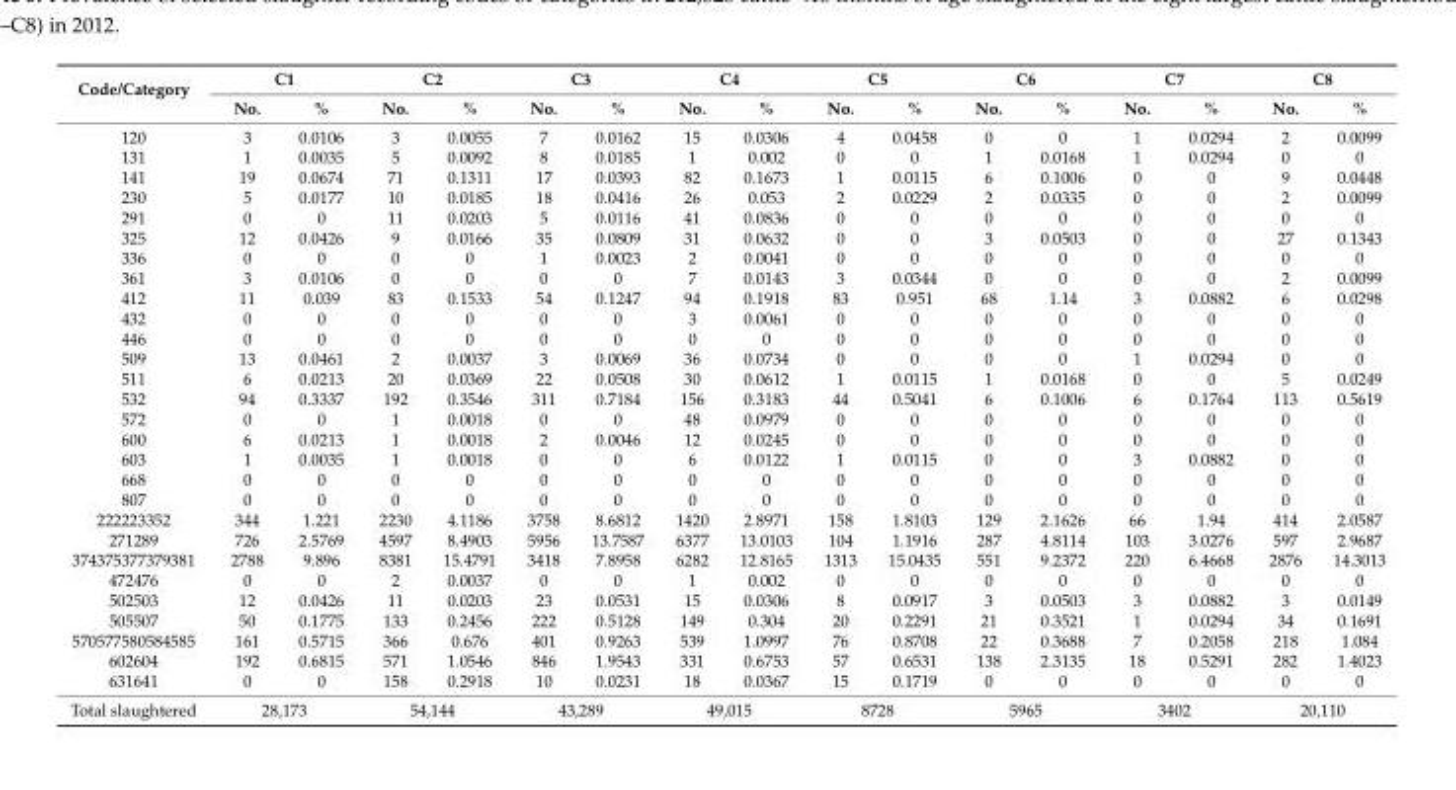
<table><thead><tr><td rowspan="2">Code/Category</td><td colspan="2">C1</td><td colspan="2">C2</td><td colspan="2">C3</td><td colspan="2">C4</td><td colspan="2">C5</td><td colspan="2">C6</td><td colspan="2">C7</td><td colspan="2">C8</td></tr><tr><td>No.</td><td>%</td><td>No.</td><td>%</td><td>No.</td><td>%</td><td>No.</td><td>%</td><td>No.</td><td>%</td><td>No.</td><td>%</td><td>No.</td><td>%</td><td>No.</td><td>%</td></tr></thead><tbody><tr><td>120</td><td>3</td><td>0.0106</td><td>3</td><td>0.0055</td><td>7</td><td>0.0162</td><td>15</td><td>0.0306</td><td>4</td><td>0.0458</td><td>0</td><td>0</td><td>1</td><td>0.0294</td><td>2</td><td>0.0099</td></tr><tr><td>131</td><td>1</td><td>0.0035</td><td>5</td><td>0.0092</td><td>8</td><td>0.0185</td><td>1</td><td>0.002</td><td>0</td><td>0</td><td>1</td><td>0.0168</td><td>1</td><td>0.0294</td><td>0</td><td>0</td></tr><tr><td>141</td><td>19</td><td>0.0674</td><td>71</td><td>0.1311</td><td>17</td><td>0.0393</td><td>82</td><td>0.1673</td><td>1</td><td>0.0115</td><td>6</td><td>0.1006</td><td>0</td><td>0</td><td>9</td><td>0.0448</td></tr><tr><td>230</td><td>5</td><td>0.0177</td><td>10</td><td>0.0185</td><td>18</td><td>0.0416</td><td>26</td><td>0.053</td><td>2</td><td>0.0229</td><td>2</td><td>0.0335</td><td>0</td><td>0</td><td>2</td><td>0.0099</td></tr><tr><td>291</td><td>0</td><td>0</td><td>11</td><td>0.0203</td><td>5</td><td>0.0116</td><td>41</td><td>0.0836</td><td>0</td><td>0</td><td>0</td><td>0</td><td>0</td><td>0</td><td>0</td><td>0</td></tr><tr><td>325</td><td>12</td><td>0.0426</td><td>9</td><td>0.0166</td><td>35</td><td>0.0809</td><td>31</td><td>0.0632</td><td>0</td><td>0</td><td>3</td><td>0.0503</td><td>0</td><td>0</td><td>27</td><td>0.1343</td></tr><tr><td>336</td><td>0</td><td>0</td><td>0</td><td>0</td><td>1</td><td>0.0023</td><td>2</td><td>0.0041</td><td>0</td><td>0</td><td>0</td><td>0</td><td>0</td><td>0</td><td>0</td><td>0</td></tr><tr><td>361</td><td>3</td><td>0.0106</td><td>0</td><td>0</td><td>0</td><td>0</td><td>7</td><td>0.0143</td><td>3</td><td>0.0344</td><td>0</td><td>0</td><td>0</td><td>0</td><td>2</td><td>0.0099</td></tr><tr><td>412</td><td>11</td><td>0.039</td><td>83</td><td>0.1533</td><td>54</td><td>0.1247</td><td>94</td><td>0.1918</td><td>83</td><td>0.951</td><td>68</td><td>1.14</td><td>3</td><td>0.0882</td><td>6</td><td>0.0298</td></tr><tr><td>432</td><td>0</td><td>0</td><td>0</td><td>0</td><td>0</td><td>0</td><td>3</td><td>0.0061</td><td>0</td><td>0</td><td>0</td><td>0</td><td>0</td><td>0</td><td>0</td><td>0</td></tr><tr><td>446</td><td>0</td><td>0</td><td>0</td><td>0</td><td>0</td><td>0</td><td>0</td><td>0</td><td>0</td><td>0</td><td>0</td><td>0</td><td>0</td><td>0</td><td>0</td><td>0</td></tr><tr><td>509</td><td>13</td><td>0.0461</td><td>2</td><td>0.0037</td><td>3</td><td>0.0069</td><td>36</td><td>0.0734</td><td>0</td><td>0</td><td>0</td><td>0</td><td>1</td><td>0.0294</td><td>0</td><td>0</td></tr><tr><td>511</td><td>6</td><td>0.0213</td><td>20</td><td>0.0369</td><td>22</td><td>0.0508</td><td>30</td><td>0.0612</td><td>1</td><td>0.0115</td><td>1</td><td>0.0168</td><td>0</td><td>0</td><td>5</td><td>0.0249</td></tr><tr><td>532</td><td>94</td><td>0.3337</td><td>192</td><td>0.3546</td><td>311</td><td>0.7184</td><td>156</td><td>0.3183</td><td>44</td><td>0.5041</td><td>6</td><td>0.1006</td><td>6</td><td>0.1764</td><td>113</td><td>0.5619</td></tr><tr><td>572</td><td>0</td><td>0</td><td>1</td><td>0.0018</td><td>0</td><td>0</td><td>48</td><td>0.0979</td><td>0</td><td>0</td><td>0</td><td>0</td><td>0</td><td>0</td><td>0</td><td>0</td></tr><tr><td>600</td><td>6</td><td>0.0213</td><td>1</td><td>0.0018</td><td>2</td><td>0.0046</td><td>12</td><td>0.0245</td><td>0</td><td>0</td><td>0</td><td>0</td><td>0</td><td>0</td><td>0</td><td>0</td></tr><tr><td>603</td><td>1</td><td>0.0035</td><td>1</td><td>0.0018</td><td>0</td><td>0</td><td>6</td><td>0.0122</td><td>1</td><td>0.0115</td><td>0</td><td>0</td><td>3</td><td>0.0882</td><td>0</td><td>0</td></tr><tr><td>668</td><td>0</td><td>0</td><td>0</td><td>0</td><td>0</td><td>0</td><td>0</td><td>0</td><td>0</td><td>0</td><td>0</td><td>0</td><td>0</td><td>0</td><td>0</td><td>0</td></tr><tr><td>807</td><td>0</td><td>0</td><td>0</td><td>0</td><td>0</td><td>0</td><td>0</td><td>0</td><td>0</td><td>0</td><td>0</td><td>0</td><td>0</td><td>0</td><td>0</td><td>0</td></tr><tr><td>222223352</td><td>344</td><td>1.221</td><td>2230</td><td>4.1186</td><td>3758</td><td>8.6812</td><td>1420</td><td>2.8971</td><td>158</td><td>1.8103</td><td>129</td><td>2.1626</td><td>66</td><td>1.94</td><td>414</td><td>2.0587</td></tr><tr><td>271289</td><td>726</td><td>2.5769</td><td>4597</td><td>8.4903</td><td>5956</td><td>13.7587</td><td>6377</td><td>13.0103</td><td>104</td><td>1.1916</td><td>287</td><td>4.8114</td><td>103</td><td>3.0276</td><td>597</td><td>2.9687</td></tr><tr><td>374375377379381</td><td>2788</td><td>9.896</td><td>8381</td><td>15.4791</td><td>3418</td><td>7.8958</td><td>6282</td><td>12.8165</td><td>1313</td><td>15.0435</td><td>551</td><td>9.2372</td><td>220</td><td>6.4668</td><td>2876</td><td>14.3013</td></tr><tr><td>472476</td><td>0</td><td>0</td><td>2</td><td>0.0037</td><td>0</td><td>0</td><td>1</td><td>0.002</td><td>0</td><td>0</td><td>0</td><td>0</td><td>0</td><td>0</td><td>0</td><td>0</td></tr><tr><td>502503</td><td>12</td><td>0.0426</td><td>11</td><td>0.0203</td><td>23</td><td>0.0531</td><td>15</td><td>0.0306</td><td>8</td><td>0.0917</td><td>3</td><td>0.0503</td><td>3</td><td>0.0882</td><td>3</td><td>0.0149</td></tr><tr><td>505507</td><td>50</td><td>0.1775</td><td>133</td><td>0.2456</td><td>222</td><td>0.5128</td><td>149</td><td>0.304</td><td>20</td><td>0.2291</td><td>21</td><td>0.3521</td><td>1</td><td>0.0294</td><td>34</td><td>0.1691</td></tr><tr><td>570577580584585</td><td>161</td><td>0.5715</td><td>366</td><td>0.676</td><td>401</td><td>0.9263</td><td>539</td><td>1.0997</td><td>76</td><td>0.8708</td><td>22</td><td>0.3688</td><td>7</td><td>0.2058</td><td>218</td><td>1.084</td></tr><tr><td>602604</td><td>192</td><td>0.6815</td><td>571</td><td>1.0546</td><td>846</td><td>1.9543</td><td>331</td><td>0.6753</td><td>57</td><td>0.6531</td><td>138</td><td>2.3135</td><td>18</td><td>0.5291</td><td>282</td><td>1.4023</td></tr><tr><td>631641</td><td>0</td><td>0</td><td>158</td><td>0.2918</td><td>10</td><td>0.0231</td><td>18</td><td>0.0367</td><td>15</td><td>0.1719</td><td>0</td><td>0</td><td>0</td><td>0</td><td>0</td><td>0</td></tr><tr><td>Total slaughtered</td><td colspan="2">28,173</td><td colspan="2">54,144</td><td colspan="2">43,289</td><td colspan="2">49,015</td><td colspan="2">8728</td><td colspan="2">5965</td><td colspan="2">3402</td><td colspan="2">20,110</td></tr></tbody></table>